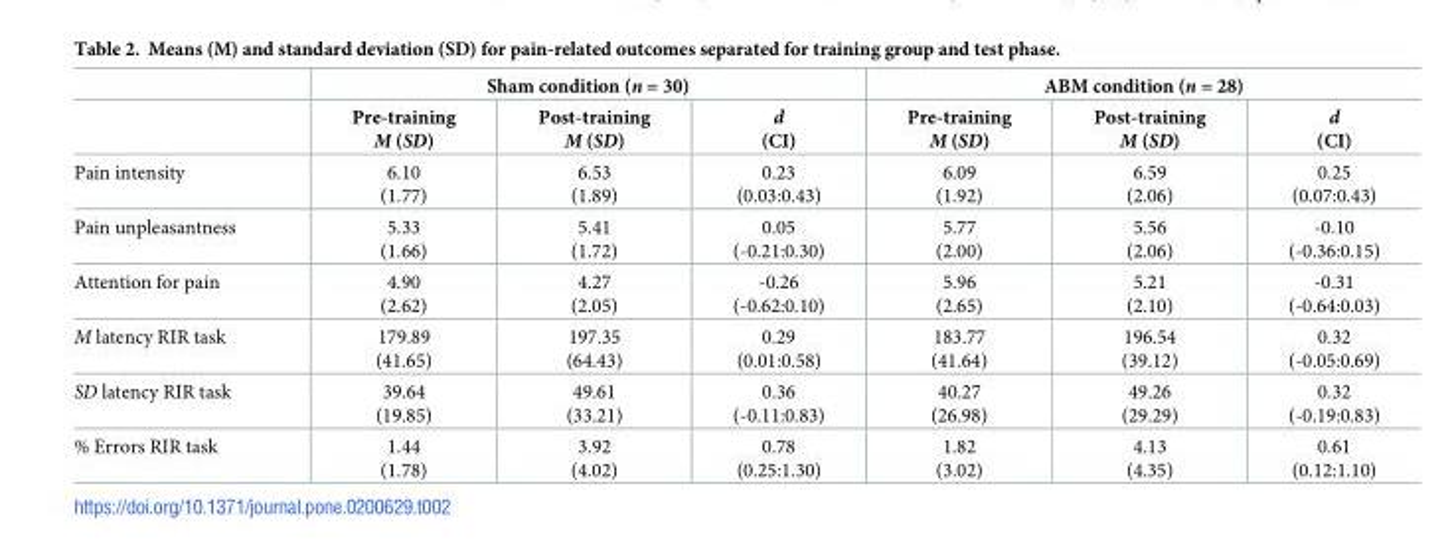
<table><thead><tr><td rowspan="2"></td><td colspan="3">Sham condition (n = 30)</td><td colspan="3">ABM condition (n = 28)</td></tr><tr><td>Pre-training M (SD)</td><td>Post-training M (SD)</td><td>d (CI)</td><td>Pre-training M (SD)</td><td>Post-training M (SD)</td><td>d (CI)</td></tr></thead><tbody><tr><td>Pain intensity</td><td>6.10 (1.77)</td><td>6.53 (1.89)</td><td>0.23 (0.03:0.43)</td><td>6.09 (1.92)</td><td>6.59 (2.06)</td><td>0.25 (0.07:0.43)</td></tr><tr><td>Pain unpleasantness</td><td>5.33 (1.66)</td><td>5.41 (1.72)</td><td>0.05 (-0.21:0.30)</td><td>5.77 (2.00)</td><td>5.56 (2.06)</td><td>-0.10 (-0.36:0.15)</td></tr><tr><td>Attention for pain</td><td>4.90 (2.62)</td><td>4.27 (2.05)</td><td>-0.26 (-0.62:0.10)</td><td>5.96 (2.65)</td><td>5.21 (2.10)</td><td>-0.31 (-0.64:0.03)</td></tr><tr><td>M latency RIR task</td><td>179.89 (41.65)</td><td>197.35 (64.43)</td><td>0.29 (0.01:0.58)</td><td>183.77 (41.64)</td><td>196.54 (39.12)</td><td>0.32 (-0.05:0.69)</td></tr><tr><td>SD latency RIR task</td><td>39.64 (19.85)</td><td>49.61 (33.21)</td><td>0.36 (-0.11:0.83)</td><td>40.27 (26.98)</td><td>49.26 (29.29)</td><td>0.32 (-0.19:0.83)</td></tr><tr><td>% Errors RIR task</td><td>1.44 (1.78)</td><td>3.92 (4.02)</td><td>0.78 (0.25:1.30)</td><td>1.82 (3.02)</td><td>4.13 (4.35)</td><td>0.61 (0.12:1.10)</td></tr></tbody></table>